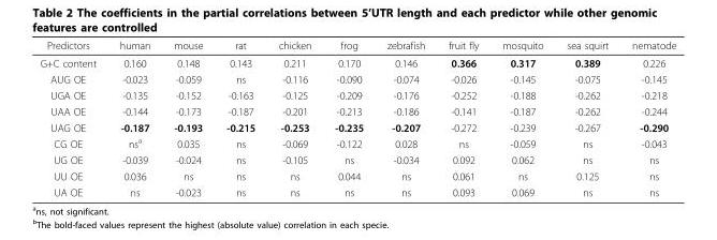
<table><thead><tr><td>Predictors</td><td>human</td><td>mouse</td><td>rat</td><td>chicken</td><td>frog</td><td>zebrafish</td><td>fruit fly</td><td>mosquito</td><td>sea squirt</td><td>nematode</td></tr></thead><tbody><tr><td>G+C content</td><td>0.160</td><td>0.148</td><td>0.143</td><td>0.211</td><td>0.170</td><td>0.146</td><td>0.366</td><td>0.317</td><td>0.389</td><td>0.226</td></tr><tr><td>AUG OE</td><td>-0.023</td><td>-0.059</td><td>ns</td><td>-0.116</td><td>-0.090</td><td>-0.074</td><td>-0.026</td><td>-0.145</td><td>-0.075</td><td>-0.145</td></tr><tr><td>UGA OE</td><td>-0.135</td><td>-0.152</td><td>-0.163</td><td>-0.125</td><td>-0.209</td><td>-0.176</td><td>-0.252</td><td>-0.188</td><td>-0.262</td><td>-0.218</td></tr><tr><td>UAA OE</td><td>-0.144</td><td>-0.173</td><td>-0.187</td><td>-0.201</td><td>-0.213</td><td>-0.186</td><td>-0.141</td><td>-0.187</td><td>-0.262</td><td>-0.244</td></tr><tr><td>UAG OE</td><td>-0.187</td><td>-0.193</td><td>-0.215</td><td>-0.253</td><td>-0.235</td><td>-0.207</td><td>-0.272</td><td>-0.239</td><td>-0.267</td><td>-0.290</td></tr><tr><td>CG OE</td><td>ns<sup>a</sup></td><td>0.035</td><td>ns</td><td>-0.069</td><td>-0.122</td><td>0.028</td><td>ns</td><td>-0.059</td><td>ns</td><td>-0.043</td></tr><tr><td>UG OE</td><td>-0.039</td><td>-0.024</td><td>ns</td><td>-0.105</td><td>ns</td><td>-0.034</td><td>0.092</td><td>0.062</td><td>ns</td><td>ns</td></tr><tr><td>UU OE</td><td>0.036</td><td>ns</td><td>ns</td><td>ns</td><td>0.044</td><td>ns</td><td>0.061</td><td>ns</td><td>0.125</td><td>ns</td></tr><tr><td>UA OE</td><td>ns</td><td>-0.023</td><td>ns</td><td>ns</td><td>ns</td><td>ns</td><td>0.093</td><td>0.069</td><td>ns</td><td>ns</td></tr></tbody></table>